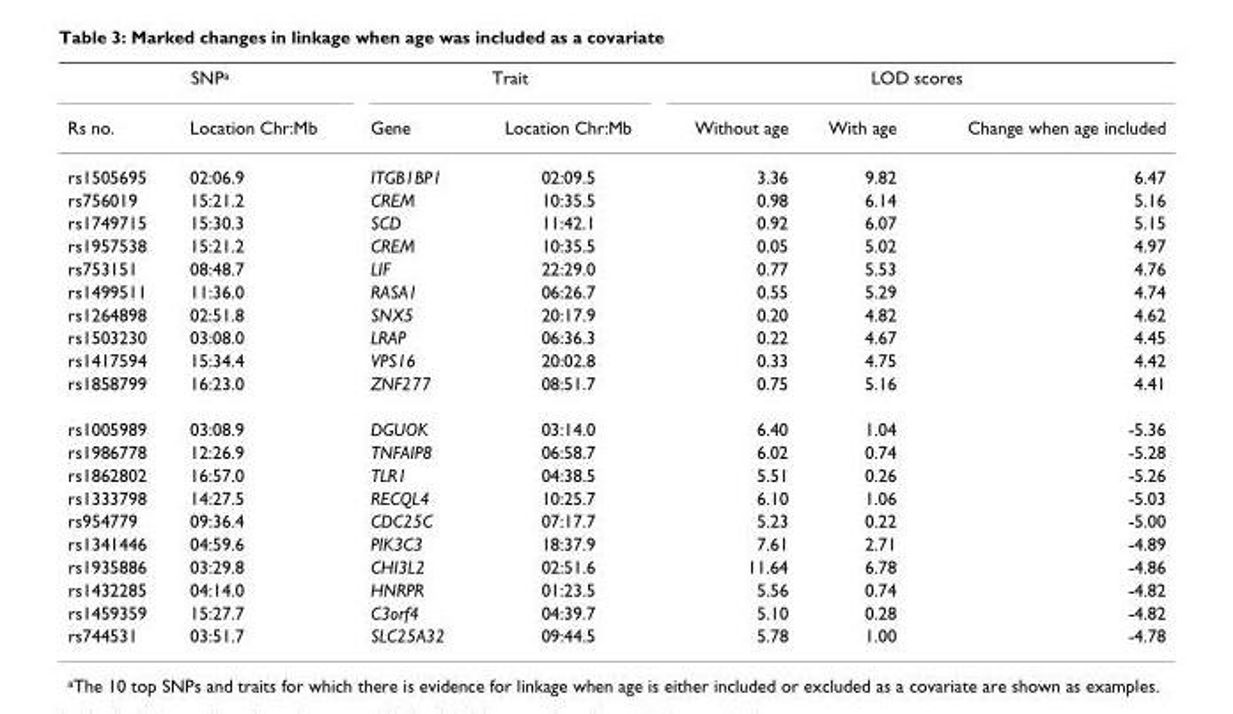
<table><thead><tr><td colspan="2">SNP<sup>a</sup></td><td colspan="2">Trait</td><td colspan="3">LOD scores</td></tr><tr><td>Rs no.</td><td>Location Chr:Mb</td><td>Gene</td><td>Location Chr:Mb</td><td>Without age</td><td>With age</td><td>Change when age included</td></tr></thead><tbody><tr><td>rs1505695</td><td>02:06.9</td><td>ITGB1BP1</td><td>02:09.5</td><td>3.36</td><td>9.82</td><td>6.47</td></tr><tr><td>rs756019</td><td>15:21.2</td><td>CREM</td><td>10:35.5</td><td>0.98</td><td>6.14</td><td>5.16</td></tr><tr><td>rs1749715</td><td>15:30.3</td><td>SCD</td><td>11:42.1</td><td>0.92</td><td>6.07</td><td>5.15</td></tr><tr><td>rs1957538</td><td>15:21.2</td><td>CREM</td><td>10:35.5</td><td>0.05</td><td>5.02</td><td>4.97</td></tr><tr><td>rs753151</td><td>08:48.7</td><td>LIF</td><td>22:29.0</td><td>0.77</td><td>5.53</td><td>4.76</td></tr><tr><td>rs1499511</td><td>11:36.0</td><td>RASA1</td><td>06:26.7</td><td>0.55</td><td>5.29</td><td>4.74</td></tr><tr><td>rs1264898</td><td>02:51.8</td><td>SNX5</td><td>20:17.9</td><td>0.20</td><td>4.82</td><td>4.62</td></tr><tr><td>rs1503230</td><td>03:08.0</td><td>LRAP</td><td>06:36.3</td><td>0.22</td><td>4.67</td><td>4.45</td></tr><tr><td>rs1417594</td><td>15:34.4</td><td>VPS16</td><td>20:02.8</td><td>0.33</td><td>4.75</td><td>4.42</td></tr><tr><td>rs1858799</td><td>16:23.0</td><td>ZNF277</td><td>08:51.7</td><td>0.75</td><td>5.16</td><td>4.41</td></tr><tr><td>rs1005989</td><td>03:08.9</td><td>DGUOK</td><td>03:14.0</td><td>6.40</td><td>1.04</td><td>-5.36</td></tr><tr><td>rs1986778</td><td>12:26.9</td><td>TNFAIP8</td><td>06:58.7</td><td>6.02</td><td>0.74</td><td>-5.28</td></tr><tr><td>rs1862802</td><td>16:57.0</td><td>TLR1</td><td>04:38.5</td><td>5.51</td><td>0.26</td><td>-5.26</td></tr><tr><td>rs1333798</td><td>14:27.5</td><td>RECQL4</td><td>10:25.7</td><td>6.10</td><td>1.06</td><td>-5.03</td></tr><tr><td>rs954779</td><td>09:36.4</td><td>CDC25C</td><td>07:17.7</td><td>5.23</td><td>0.22</td><td>-5.00</td></tr><tr><td>rs1341446</td><td>04:59.6</td><td>PIK3C3</td><td>18:37.9</td><td>7.61</td><td>2.71</td><td>-4.89</td></tr><tr><td>rs1935886</td><td>03:29.8</td><td>CHI3L2</td><td>02:51.6</td><td>11.64</td><td>6.78</td><td>-4.86</td></tr><tr><td>rs1432285</td><td>04:14.0</td><td>HNRPR</td><td>01:23.5</td><td>5.56</td><td>0.74</td><td>-4.82</td></tr><tr><td>rs1459359</td><td>15:27.7</td><td>C3orf4</td><td>04:39.7</td><td>5.10</td><td>0.28</td><td>-4.82</td></tr><tr><td>rs744531</td><td>03:51.7</td><td>SLC25A32</td><td>09:44.5</td><td>5.78</td><td>1.00</td><td>-4.78</td></tr></tbody></table>